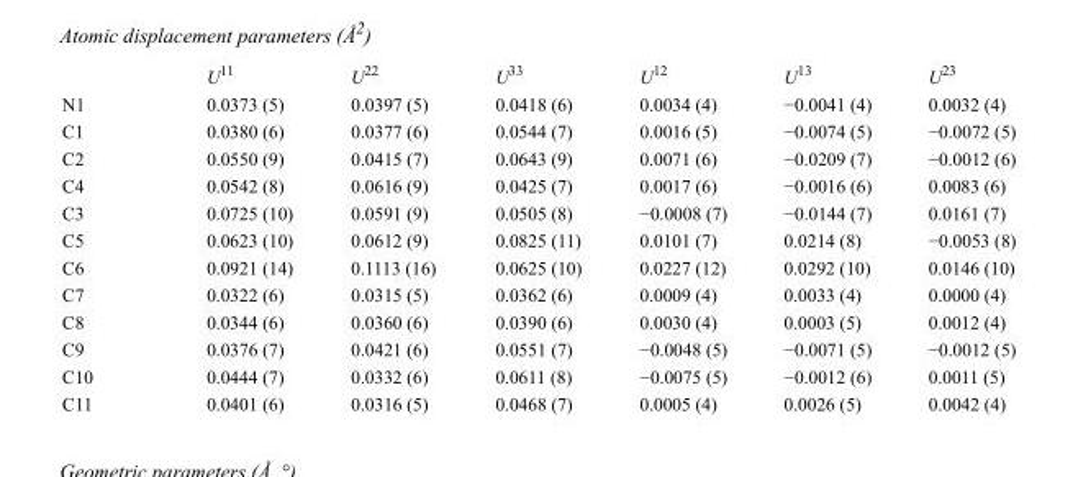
<table><thead><tr><td></td><td>U<sup>11</sup></td><td>U<sup>22</sup></td><td>U<sup>33</sup></td><td>U<sup>12</sup></td><td>U<sup>13</sup></td><td>U<sup>23</sup></td></tr></thead><tbody><tr><td>N1</td><td>0.0373 (5)</td><td>0.0397 (5)</td><td>0.0418 (6)</td><td>0.0034 (4)</td><td>−0.0041 (4)</td><td>0.0032 (4)</td></tr><tr><td>C1</td><td>0.0380 (6)</td><td>0.0377 (6)</td><td>0.0544 (7)</td><td>0.0016 (5)</td><td>−0.0074 (5)</td><td>−0.0072 (5)</td></tr><tr><td>C2</td><td>0.0550 (9)</td><td>0.0415 (7)</td><td>0.0643 (9)</td><td>0.0071 (6)</td><td>−0.0209 (7)</td><td>−0.0012 (6)</td></tr><tr><td>C4</td><td>0.0542 (8)</td><td>0.0616 (9)</td><td>0.0425 (7)</td><td>0.0017 (6)</td><td>−0.0016 (6)</td><td>0.0083 (6)</td></tr><tr><td>C3</td><td>0.0725 (10)</td><td>0.0591 (9)</td><td>0.0505 (8)</td><td>−0.0008 (7)</td><td>−0.0144 (7)</td><td>0.0161 (7)</td></tr><tr><td>C5</td><td>0.0623 (10)</td><td>0.0612 (9)</td><td>0.0825 (11)</td><td>0.0101 (7)</td><td>0.0214 (8)</td><td>−0.0053 (8)</td></tr><tr><td>C6</td><td>0.0921 (14)</td><td>0.1113 (16)</td><td>0.0625 (10)</td><td>0.0227 (12)</td><td>0.0292 (10)</td><td>0.0146 (10)</td></tr><tr><td>C7</td><td>0.0322 (6)</td><td>0.0315 (5)</td><td>0.0362 (6)</td><td>0.0009 (4)</td><td>0.0033 (4)</td><td>0.0000 (4)</td></tr><tr><td>C8</td><td>0.0344 (6)</td><td>0.0360 (6)</td><td>0.0390 (6)</td><td>0.0030 (4)</td><td>0.0003 (5)</td><td>0.0012 (4)</td></tr><tr><td>C9</td><td>0.0376 (7)</td><td>0.0421 (6)</td><td>0.0551 (7)</td><td>−0.0048 (5)</td><td>−0.0071 (5)</td><td>−0.0012 (5)</td></tr><tr><td>C10</td><td>0.0444 (7)</td><td>0.0332 (6)</td><td>0.0611 (8)</td><td>−0.0075 (5)</td><td>−0.0012 (6)</td><td>0.0011 (5)</td></tr><tr><td>C11</td><td>0.0401 (6)</td><td>0.0316 (5)</td><td>0.0468 (7)</td><td>0.0005 (4)</td><td>0.0026 (5)</td><td>0.0042 (4)</td></tr></tbody></table>